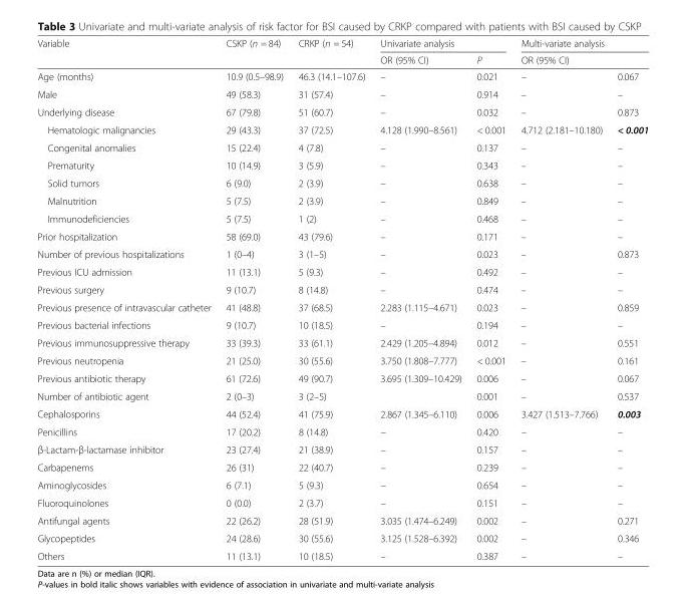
<table><thead><tr><td rowspan="2">Variable</td><td rowspan="2">CSKP (n = 84)</td><td rowspan="2">CRKP (n = 54)</td><td colspan="2">Univariate analysis</td><td colspan="2">Multi-variate analysis</td></tr><tr><td>OR (95% CI)</td><td>P</td><td>OR (95% CI)</td><td></td></tr></thead><tbody><tr><td>Age (months)</td><td>10.9 (0.5–98.9)</td><td>46.3 (14.1–107.6)</td><td>–</td><td>0.021</td><td>–</td><td>0.067</td></tr><tr><td>Male</td><td>49 (58.3)</td><td>31 (57.4)</td><td>–</td><td>0.914</td><td>–</td><td>–</td></tr><tr><td>Underlying disease</td><td>67 (79.8)</td><td>51 (60.7)</td><td>–</td><td>0.032</td><td>–</td><td>0.873</td></tr><tr><td>Hematologic malignancies</td><td>29 (43.3)</td><td>37 (72.5)</td><td>4.128 (1.990–8.561)</td><td>&lt; 0.001</td><td>4.712 (2.181–10.180)</td><td>&lt; 0.001</td></tr><tr><td>Congenital anomalies</td><td>15 (22.4)</td><td>4 (7.8)</td><td>–</td><td>0.137</td><td>–</td><td>–</td></tr><tr><td>Prematurity</td><td>10 (14.9)</td><td>3 (5.9)</td><td>–</td><td>0.343</td><td>–</td><td>–</td></tr><tr><td>Solid tumors</td><td>6 (9.0)</td><td>2 (3.9)</td><td>–</td><td>0.638</td><td>–</td><td>–</td></tr><tr><td>Malnutrition</td><td>5 (7.5)</td><td>2 (3.9)</td><td>–</td><td>0.849</td><td>–</td><td>–</td></tr><tr><td>Immunodeficiencies</td><td>5 (7.5)</td><td>1 (2)</td><td>–</td><td>0.468</td><td>–</td><td>–</td></tr><tr><td>Prior hospitalization</td><td>58 (69.0)</td><td>43 (79.6)</td><td>–</td><td>0.171</td><td>–</td><td>–</td></tr><tr><td>Number of previous hospitalizations</td><td>1 (0–4)</td><td>3 (1–5)</td><td>–</td><td>0.023</td><td>–</td><td>0.873</td></tr><tr><td>Previous ICU admission</td><td>11 (13.1)</td><td>5 (9.3)</td><td>–</td><td>0.492</td><td>–</td><td>–</td></tr><tr><td>Previous surgery</td><td>9 (10.7)</td><td>8 (14.8)</td><td>–</td><td>0.474</td><td>–</td><td>–</td></tr><tr><td>Previous presence of intravascular catheter</td><td>41 (48.8)</td><td>37 (68.5)</td><td>2.283 (1.115–4.671)</td><td>0.023</td><td>–</td><td>0.859</td></tr><tr><td>Previous bacterial infections</td><td>9 (10.7)</td><td>10 (18.5)</td><td>–</td><td>0.194</td><td>–</td><td>–</td></tr><tr><td>Previous immunosuppressive therapy</td><td>33 (39.3)</td><td>33 (61.1)</td><td>2.429 (1.205–4.894)</td><td>0.012</td><td>–</td><td>0.551</td></tr><tr><td>Previous neutropenia</td><td>21 (25.0)</td><td>30 (55.6)</td><td>3.750 (1.808–7.777)</td><td>&lt; 0.001</td><td>–</td><td>0.161</td></tr><tr><td>Previous antibiotic therapy</td><td>61 (72.6)</td><td>49 (90.7)</td><td>3.695 (1.309–10.429)</td><td>0.006</td><td>–</td><td>0.067</td></tr><tr><td>Number of antibiotic agent</td><td>2 (0–3)</td><td>3 (2–5)</td><td></td><td>0.001</td><td>–</td><td>0.537</td></tr><tr><td>Cephalosporins</td><td>44 (52.4)</td><td>41 (75.9)</td><td>2.867 (1.345–6.110)</td><td>0.006</td><td>3.427 (1.513–7.766)</td><td>0.003</td></tr><tr><td>Penicillins</td><td>17 (20.2)</td><td>8 (14.8)</td><td>–</td><td>0.420</td><td>–</td><td>–</td></tr><tr><td>β-Lactam-β-lactamase inhibitor</td><td>23 (27.4)</td><td>21 (38.9)</td><td>–</td><td>0.157</td><td>–</td><td>–</td></tr><tr><td>Carbapenems</td><td>26 (31)</td><td>22 (40.7)</td><td>–</td><td>0.239</td><td>–</td><td>–</td></tr><tr><td>Aminoglycosides</td><td>6 (7.1)</td><td>5 (9.3)</td><td>–</td><td>0.654</td><td>–</td><td>–</td></tr><tr><td>Fluoroquinolones</td><td>0 (0.0)</td><td>2 (3.7)</td><td>–</td><td>0.151</td><td>–</td><td>–</td></tr><tr><td>Antifungal agents</td><td>22 (26.2)</td><td>28 (51.9)</td><td>3.035 (1.474–6.249)</td><td>0.002</td><td>–</td><td>0.271</td></tr><tr><td>Glycopeptides</td><td>24 (28.6)</td><td>30 (55.6)</td><td>3.125 (1.528–6.392)</td><td>0.002</td><td>–</td><td>0.346</td></tr><tr><td>Others</td><td>11 (13.1)</td><td>10 (18.5)</td><td>–</td><td>0.387</td><td>–</td><td>–</td></tr></tbody></table>